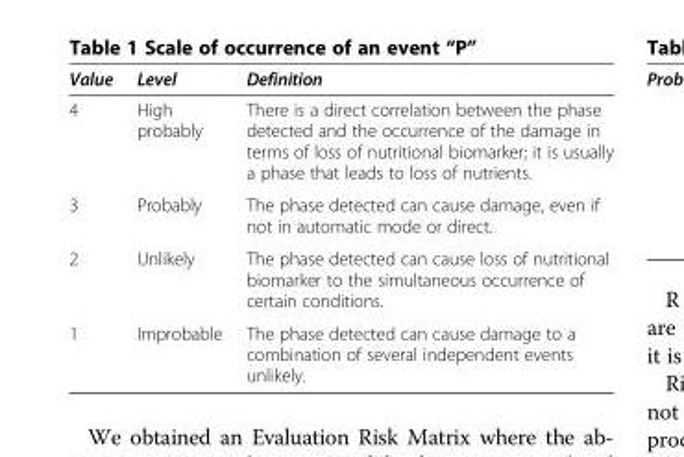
<table><thead><tr><td>Value</td><td>Level</td><td>Definition</td></tr></thead><tbody><tr><td>4</td><td>High probably</td><td>There is a direct correlation between the phase detected and the occurrence of the damage in terms of loss of nutritional biomarker; it is usually a phase that leads to loss of nutrients.</td></tr><tr><td>3</td><td>Probably</td><td>The phase detected can cause damage, even if not in automatic mode or direct.</td></tr><tr><td>2</td><td>Unlikely</td><td>The phase detected can cause loss of nutritional biomarker to the simultaneous occurrence of certain conditions.</td></tr><tr><td>1</td><td>Improbable</td><td>The phase detected can cause damage to a combination of several independent events unlikely.</td></tr></tbody></table>